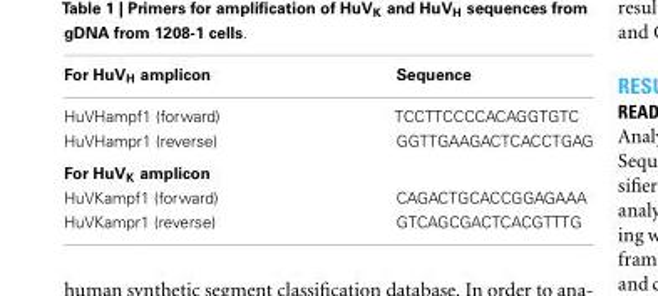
<table><thead><tr><td>For HuV<sub>H</sub> amplicon</td><td>Sequence</td></tr></thead><tbody><tr><td>HuVHampf1 (forward)</td><td>TCCTTCCCCACAGGTGTC</td></tr><tr><td>HuVHampr1 (reverse)</td><td>GGTTGAAGACTCACCTGAG</td></tr><tr><td colspan="2">For HuV<sub>K</sub> amplicon</td></tr><tr><td>HuVKampf1 (forward)</td><td>CAGACTGCACCGGAGAAA</td></tr><tr><td>HuVKampr1 (reverse)</td><td>GTCAGCGACTCACGTTTG</td></tr></tbody></table>